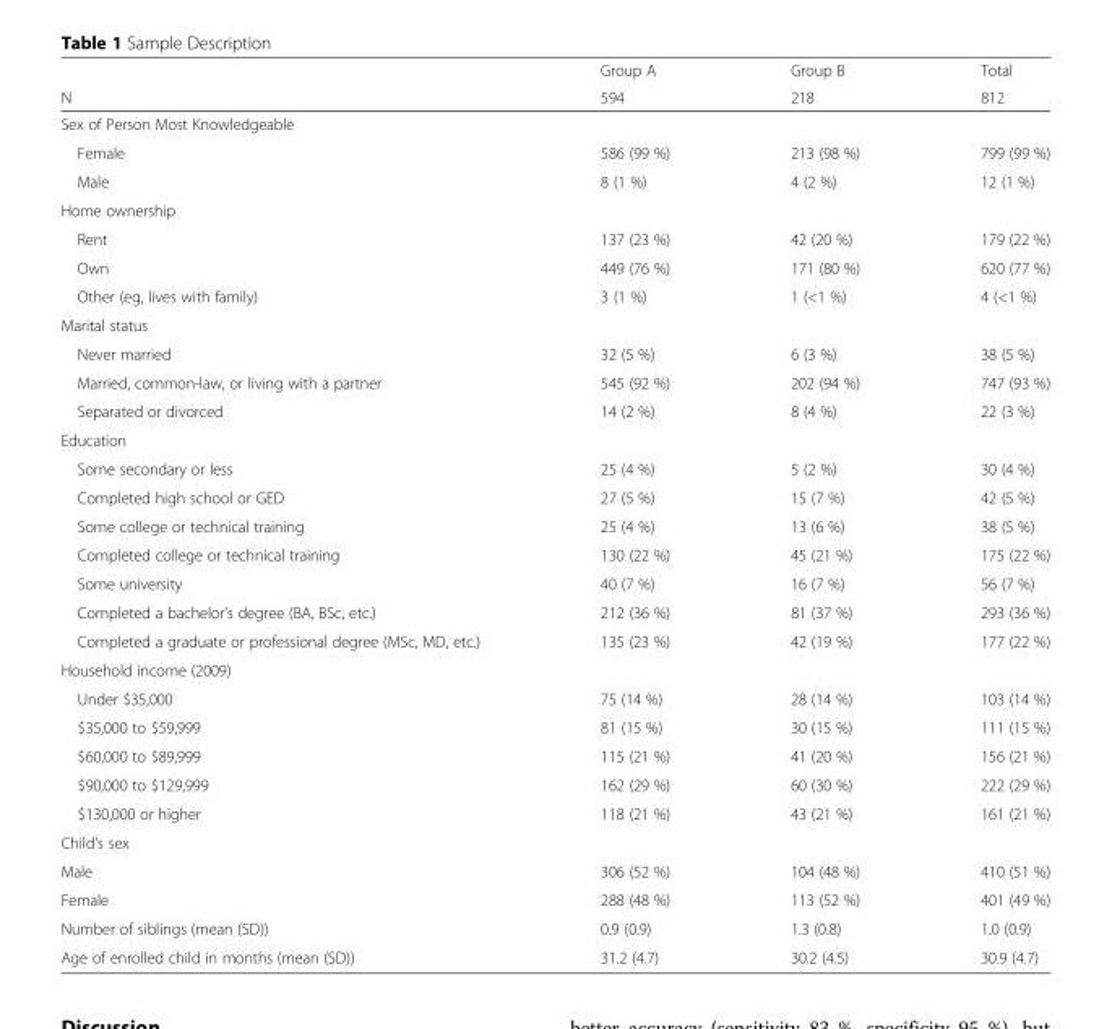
<table><thead><tr><td rowspan="2">N</td><td rowspan="2">Group A 594</td><td rowspan="2">Group B 218</td><td rowspan="2">Total 812</td></tr><tr></tr></thead><tbody><tr><td colspan="4">Sex of Person Most Knowledgeable</td></tr><tr><td>Female</td><td>586 (99 %)</td><td>213 (98 %)</td><td>799 (99 %)</td></tr><tr><td>Male</td><td>8 (1 %)</td><td>4 (2 %)</td><td>12 (1 %)</td></tr><tr><td colspan="4">Home ownership</td></tr><tr><td>Rent</td><td>137 (23 %)</td><td>42 (20 %)</td><td>179 (22 %)</td></tr><tr><td>Own</td><td>449 (76 %)</td><td>171 (80 %)</td><td>620 (77 %)</td></tr><tr><td>Other (eg, lives with family)</td><td>3 (1 %)</td><td>1 (&lt;1 %)</td><td>4 (&lt;1 %)</td></tr><tr><td colspan="4">Marital status</td></tr><tr><td>Never married</td><td>32 (5 %)</td><td>6 (3 %)</td><td>38 (5 %)</td></tr><tr><td>Married, common-law, or living with a partner</td><td>545 (92 %)</td><td>202 (94 %)</td><td>747 (93 %)</td></tr><tr><td>Separated or divorced</td><td>14 (2 %)</td><td>8 (4 %)</td><td>22 (3 %)</td></tr><tr><td colspan="4">Education</td></tr><tr><td>Some secondary or less</td><td>25 (4 %)</td><td>5 (2 %)</td><td>30 (4 %)</td></tr><tr><td>Completed high school or GED</td><td>27 (5 %)</td><td>15 (7 %)</td><td>42 (5 %)</td></tr><tr><td>Some college or technical training</td><td>25 (4 %)</td><td>13 (6 %)</td><td>38 (5 %)</td></tr><tr><td>Completed college or technical training</td><td>130 (22 %)</td><td>45 (21 %)</td><td>175 (22 %)</td></tr><tr><td>Some university</td><td>40 (7 %)</td><td>16 (7 %)</td><td>56 (7 %)</td></tr><tr><td>Completed a bachelor’s degree (BA, BSc, etc.)</td><td>212 (36 %)</td><td>81 (37 %)</td><td>293 (36 %)</td></tr><tr><td>Completed a graduate or professional degree (MSc, MD, etc.)</td><td>135 (23 %)</td><td>42 (19 %)</td><td>177 (22 %)</td></tr><tr><td colspan="4">Household income (2009)</td></tr><tr><td>Under $35,000</td><td>75 (14 %)</td><td>28 (14 %)</td><td>103 (14 %)</td></tr><tr><td>$35,000 to $59,999</td><td>81 (15 %)</td><td>30 (15 %)</td><td>111 (15 %)</td></tr><tr><td>$60,000 to $89,999</td><td>115 (21 %)</td><td>41 (20 %)</td><td>156 (21 %)</td></tr><tr><td>$90,000 to $129,999</td><td>162 (29 %)</td><td>60 (30 %)</td><td>222 (29 %)</td></tr><tr><td>$130,000 or higher</td><td>118 (21 %)</td><td>43 (21 %)</td><td>161 (21 %)</td></tr><tr><td colspan="4">Child’s sex</td></tr><tr><td>Male</td><td>306 (52 %)</td><td>104 (48 %)</td><td>410 (51 %)</td></tr><tr><td>Female</td><td>288 (48 %)</td><td>113 (52 %)</td><td>401 (49 %)</td></tr><tr><td>Number of siblings (mean (SD))</td><td>0.9 (0.9)</td><td>1.3 (0.8)</td><td>1.0 (0.9)</td></tr><tr><td>Age of enrolled child in months (mean (SD))</td><td>31.2 (4.7)</td><td>30.2 (4.5)</td><td>30.9 (4.7)</td></tr></tbody></table>